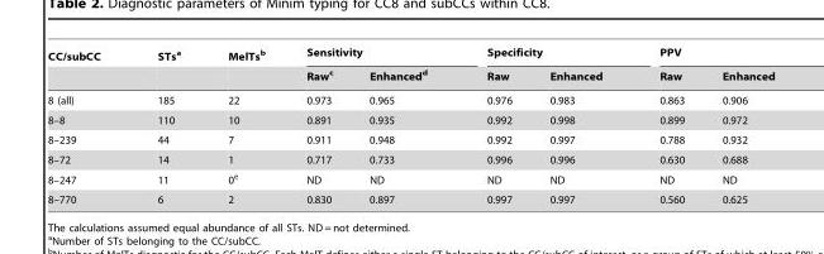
<table><thead><tr><td rowspan="2">CC/subCC</td><td rowspan="2">STs<sup>a</sup></td><td rowspan="2">MelTs<sup>b</sup></td><td colspan="2">Sensitivity</td><td colspan="2">Specificity</td><td colspan="2">PPV</td></tr><tr><td>Raw<sup>c</sup></td><td>Enhanced<sup>d</sup></td><td>Raw</td><td>Enhanced</td><td>Raw</td><td>Enhanced</td></tr></thead><tbody><tr><td>8 (all)</td><td>185</td><td>22</td><td>0.973</td><td>0.965</td><td>0.976</td><td>0.983</td><td>0.863</td><td>0.906</td></tr><tr><td>8–8</td><td>110</td><td>10</td><td>0.891</td><td>0.935</td><td>0.992</td><td>0.998</td><td>0.899</td><td>0.972</td></tr><tr><td>8–239</td><td>44</td><td>7</td><td>0.911</td><td>0.948</td><td>0.992</td><td>0.997</td><td>0.788</td><td>0.932</td></tr><tr><td>8–72</td><td>14</td><td>1</td><td>0.717</td><td>0.733</td><td>0.996</td><td>0.996</td><td>0.630</td><td>0.688</td></tr><tr><td>8–247</td><td>11</td><td>0<sup>e</sup></td><td>ND</td><td>ND</td><td>ND</td><td>ND</td><td>ND</td><td>ND</td></tr><tr><td>8–770</td><td>6</td><td>2</td><td>0.830</td><td>0.897</td><td>0.997</td><td>0.997</td><td>0.560</td><td>0.625</td></tr></tbody></table>